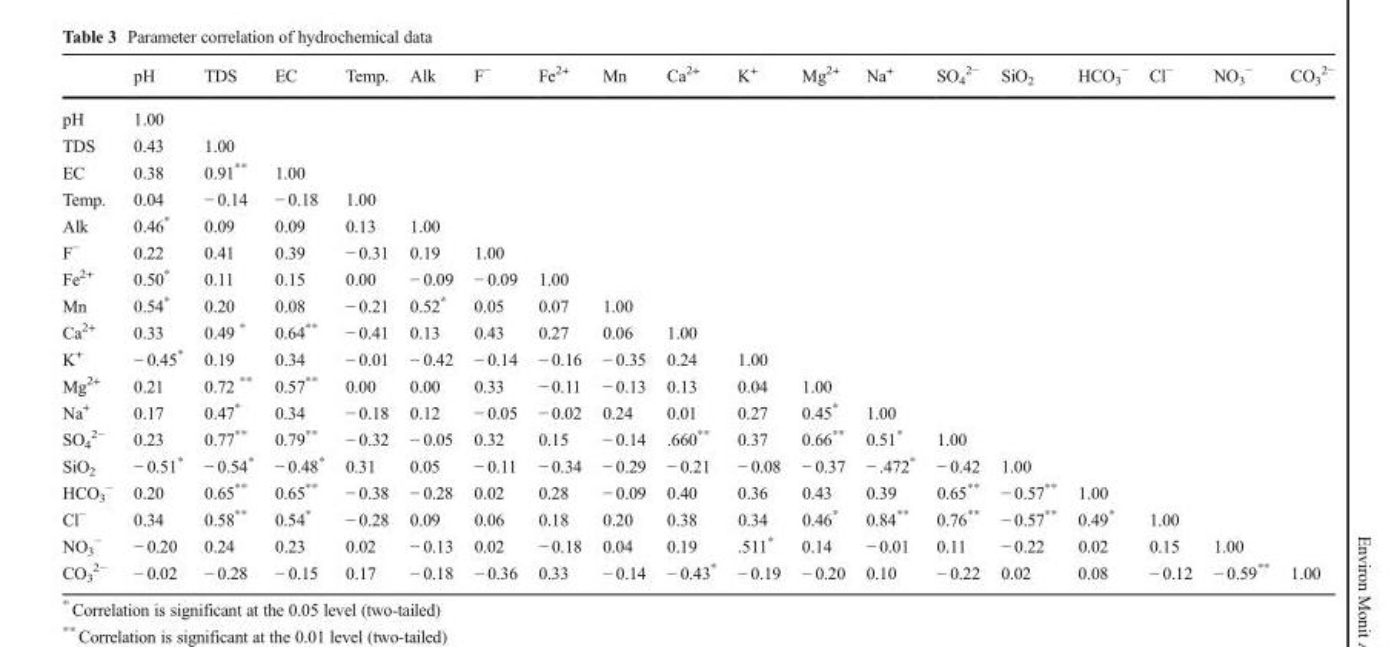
<table><thead><tr><td></td><td>pH</td><td>TDS</td><td>EC</td><td>Temp.</td><td>Alk</td><td>F<sup>−</sup></td><td>Fe<sup>2+</sup></td><td>Mn</td><td>Ca<sup>2+</sup></td><td>K<sup>+</sup></td><td>Mg<sup>2+</sup></td><td>Na<sup>+</sup></td><td>SO<sub>4</sub> <sup>2−</sup></td><td>SiO<sub>2</sub></td><td>HCO<sub>3</sub> <sup>−</sup></td><td>Cl<sup>−</sup></td><td>NO<sub>3</sub> <sup>−</sup></td><td>CO<sub>3</sub> <sup>2−</sup></td></tr></thead><tbody><tr><td>pH</td><td>1.00</td><td></td><td></td><td></td><td></td><td></td><td></td><td></td><td></td><td></td><td></td><td></td><td></td><td></td><td></td><td></td><td></td><td></td></tr><tr><td>TDS</td><td>0.43</td><td>1.00</td><td></td><td></td><td></td><td></td><td></td><td></td><td></td><td></td><td></td><td></td><td></td><td></td><td></td><td></td><td></td><td></td></tr><tr><td>EC</td><td>0.38</td><td>0.91**</td><td>1.00</td><td></td><td></td><td></td><td></td><td></td><td></td><td></td><td></td><td></td><td></td><td></td><td></td><td></td><td></td><td></td></tr><tr><td>Temp.</td><td>0.04</td><td>− 0.14</td><td>− 0.18</td><td>1.00</td><td></td><td></td><td></td><td></td><td></td><td></td><td></td><td></td><td></td><td></td><td></td><td></td><td></td><td></td></tr><tr><td>Alk</td><td>0.46*</td><td>0.09</td><td>0.09</td><td>0.13</td><td>1.00</td><td></td><td></td><td></td><td></td><td></td><td></td><td></td><td></td><td></td><td></td><td></td><td></td><td></td></tr><tr><td>F<sup>−</sup></td><td>0.22</td><td>0.41</td><td>0.39</td><td>− 0.31</td><td>0.19</td><td>1.00</td><td></td><td></td><td></td><td></td><td></td><td></td><td></td><td></td><td></td><td></td><td></td><td></td></tr><tr><td>Fe<sup>2+</sup></td><td>0.50*</td><td>0.11</td><td>0.15</td><td>0.00</td><td>− 0.09</td><td>− 0.09</td><td>1.00</td><td></td><td></td><td></td><td></td><td></td><td></td><td></td><td></td><td></td><td></td><td></td></tr><tr><td>Mn</td><td>0.54*</td><td>0.20</td><td>0.08</td><td>− 0.21</td><td>0.52*</td><td>0.05</td><td>0.07</td><td>1.00</td><td></td><td></td><td></td><td></td><td></td><td></td><td></td><td></td><td></td><td></td></tr><tr><td>Ca<sup>2+</sup></td><td>0.33</td><td>0.49 *</td><td>0.64**</td><td>− 0.41</td><td>0.13</td><td>0.43</td><td>0.27</td><td>0.06</td><td>1.00</td><td></td><td></td><td></td><td></td><td></td><td></td><td></td><td></td><td></td></tr><tr><td>K<sup>+</sup></td><td>− 0.45*</td><td>0.19</td><td>0.34</td><td>− 0.01</td><td>− 0.42</td><td>− 0.14</td><td>− 0.16</td><td>− 0.35</td><td>0.24</td><td>1.00</td><td></td><td></td><td></td><td></td><td></td><td></td><td></td><td></td></tr><tr><td>Mg<sup>2+</sup></td><td>0.21</td><td>0.72 **</td><td>0.57**</td><td>0.00</td><td>0.00</td><td>0.33</td><td>− 0.11</td><td>− 0.13</td><td>0.13</td><td>0.04</td><td>1.00</td><td></td><td></td><td></td><td></td><td></td><td></td><td></td></tr><tr><td>Na<sup>+</sup></td><td>0.17</td><td>0.47*</td><td>0.34</td><td>− 0.18</td><td>0.12</td><td>− 0.05</td><td>− 0.02</td><td>0.24</td><td>0.01</td><td>0.27</td><td>0.45*</td><td>1.00</td><td></td><td></td><td></td><td></td><td></td><td></td></tr><tr><td>SO<sub>4</sub> <sup>2−</sup></td><td>0.23</td><td>0.77**</td><td>0.79**</td><td>− 0.32</td><td>− 0.05</td><td>0.32</td><td>0.15</td><td>− 0.14</td><td>.660**</td><td>0.37</td><td>0.66**</td><td>0.51*</td><td>1.00</td><td></td><td></td><td></td><td></td><td></td></tr><tr><td>SiO<sub>2</sub></td><td>− 0.51*</td><td>− 0.54*</td><td>− 0.48*</td><td>0.31</td><td>0.05</td><td>− 0.11</td><td>− 0.34</td><td>− 0.29</td><td>− 0.21</td><td>− 0.08</td><td>− 0.37</td><td>− .472*</td><td>− 0.42</td><td>1.00</td><td></td><td></td><td></td><td></td></tr><tr><td>HCO<sub>3</sub> <sup>−</sup></td><td>0.20</td><td>0.65**</td><td>0.65**</td><td>− 0.38</td><td>− 0.28</td><td>0.02</td><td>0.28</td><td>− 0.09</td><td>0.40</td><td>0.36</td><td>0.43</td><td>0.39</td><td>0.65**</td><td>− 0.57**</td><td>1.00</td><td></td><td></td><td></td></tr><tr><td>Cl<sup>−</sup></td><td>0.34</td><td>0.58**</td><td>0.54*</td><td>− 0.28</td><td>0.09</td><td>0.06</td><td>0.18</td><td>0.20</td><td>0.38</td><td>0.34</td><td>0.46*</td><td>0.84**</td><td>0.76**</td><td>− 0.57**</td><td>0.49*</td><td>1.00</td><td></td><td></td></tr><tr><td>NO<sub>3</sub> <sup>−</sup></td><td>− 0.20</td><td>0.24</td><td>0.23</td><td>0.02</td><td>− 0.13</td><td>0.02</td><td>− 0.18</td><td>0.04</td><td>0.19</td><td>.511*</td><td>0.14</td><td>− 0.01</td><td>0.11</td><td>− 0.22</td><td>0.02</td><td>0.15</td><td>1.00</td><td></td></tr><tr><td>CO<sub>3</sub> <sup>2−</sup></td><td>− 0.02</td><td>− 0.28</td><td>− 0.15</td><td>0.17</td><td>− 0.18</td><td>− 0.36</td><td>0.33</td><td>− 0.14</td><td>− 0.43*</td><td>− 0.19</td><td>− 0.20</td><td>0.10</td><td>− 0.22</td><td>0.02</td><td>0.08</td><td>− 0.12</td><td>− 0.59**</td><td>1.00</td></tr></tbody></table>